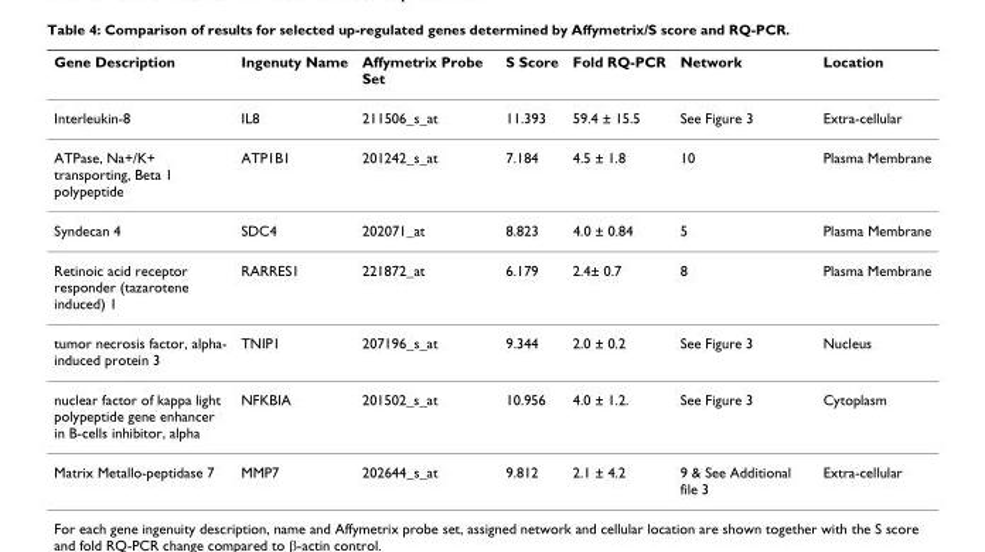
<table><thead><tr><td>Gene Description</td><td>Ingenuty Name</td><td>Affymetrix Probe Set</td><td>S Score</td><td>Fold RQ-PCR</td><td>Network</td><td>Location</td></tr></thead><tbody><tr><td>Interleukin-8</td><td>IL8</td><td>211506_s_at</td><td>11.393</td><td>59.4 ± 15.5</td><td>See Figure 3</td><td>Extra-cellular</td></tr><tr><td>ATPase, Na+/K+ transporting, Beta 1 polypeptide</td><td>ATP1B1</td><td>201242_s_at</td><td>7.184</td><td>4.5 ± 1.8</td><td>10</td><td>Plasma Membrane</td></tr><tr><td>Syndecan 4</td><td>SDC4</td><td>202071_at</td><td>8.823</td><td>4.0 ± 0.84</td><td>5</td><td>Plasma Membrane</td></tr><tr><td>Retinoic acid receptor responder (tazarotene induced) 1</td><td>RARRES1</td><td>221872_at</td><td>6.179</td><td>2.4± 0.7</td><td>8</td><td>Plasma Membrane</td></tr><tr><td>tumor necrosis factor, alpha- induced protein 3</td><td>TNIP1</td><td>207196_s_at</td><td>9.344</td><td>2.0 ± 0.2</td><td>See Figure 3</td><td>Nucleus</td></tr><tr><td>nuclear factor of kappa light polypeptide gene enhancer in B-cells inhibitor, alpha</td><td>NFKBIA</td><td>201502_s_at</td><td>10.956</td><td>4.0 ± 1.2.</td><td>See Figure 3</td><td>Cytoplasm</td></tr><tr><td>Matrix Metallo-peptidase 7</td><td>MMP7</td><td>202644_s_at</td><td>9.812</td><td>2.1 ± 4.2</td><td>9 &amp; See Additional file 3</td><td>Extra-cellular</td></tr></tbody></table>